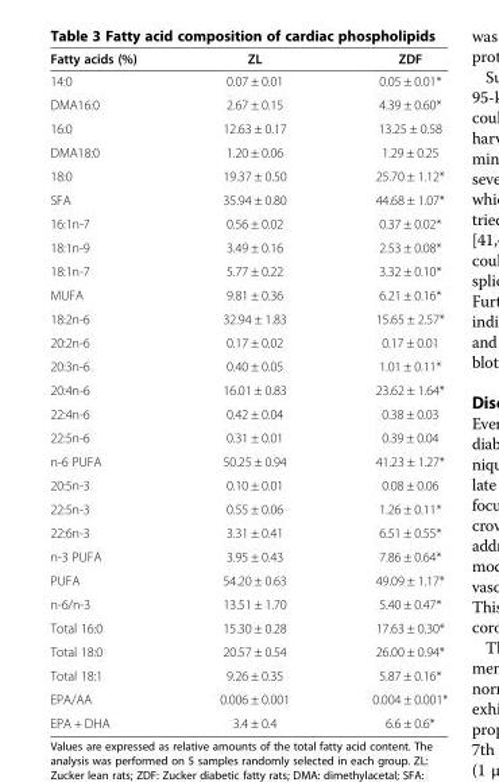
<table><thead><tr><td>Fatty acids (%)</td><td>ZL</td><td>ZDF</td></tr></thead><tbody><tr><td>14:0</td><td>0.07 ± 0.01</td><td>0.05 ± 0.01*</td></tr><tr><td>DMA16:0</td><td>2.67 ± 0.15</td><td>4.39 ± 0.60*</td></tr><tr><td>16:0</td><td>12.63 ± 0.17</td><td>13.25 ± 0.58</td></tr><tr><td>DMA18:0</td><td>1.20 ± 0.06</td><td>1.29 ± 0.25</td></tr><tr><td>18:0</td><td>19.37 ± 0.50</td><td>25.70 ± 1.12*</td></tr><tr><td>SFA</td><td>35.94 ± 0.80</td><td>44.68 ± 1.07*</td></tr><tr><td>16:1n-7</td><td>0.56 ± 0.02</td><td>0.37 ± 0.02*</td></tr><tr><td>18:1n-9</td><td>3.49 ± 0.16</td><td>2.53 ± 0.08*</td></tr><tr><td>18:1n-7</td><td>5.77 ± 0.22</td><td>3.32 ± 0.10*</td></tr><tr><td>MUFA</td><td>9.81 ± 0.36</td><td>6.21 ± 0.16*</td></tr><tr><td>18:2n-6</td><td>32.94 ± 1.83</td><td>15.65 ± 2.57*</td></tr><tr><td>20:2n-6</td><td>0.17 ± 0.02</td><td>0.17 ± 0.01</td></tr><tr><td>20:3n-6</td><td>0.40 ± 0.05</td><td>1.01 ± 0.11*</td></tr><tr><td>20:4n-6</td><td>16.01 ± 0.83</td><td>23.62 ± 1.64*</td></tr><tr><td>22:4n-6</td><td>0.42 ± 0.04</td><td>0.38 ± 0.03</td></tr><tr><td>22:5n-6</td><td>0.31 ± 0.01</td><td>0.39 ± 0.04</td></tr><tr><td>n-6 PUFA</td><td>50.25 ± 0.94</td><td>41.23 ± 1.27*</td></tr><tr><td>20:5n-3</td><td>0.10 ± 0.01</td><td>0.08 ± 0.06</td></tr><tr><td>22:5n-3</td><td>0.55 ± 0.06</td><td>1.26 ± 0.11*</td></tr><tr><td>22:6n-3</td><td>3.31 ± 0.41</td><td>6.51 ± 0.55*</td></tr><tr><td>n-3 PUFA</td><td>3.95 ± 0.43</td><td>7.86 ± 0.64*</td></tr><tr><td>PUFA</td><td>54.20 ± 0.63</td><td>49.09 ± 1.17*</td></tr><tr><td>n-6/n-3</td><td>13.51 ± 1.70</td><td>5.40 ± 0.47*</td></tr><tr><td>Total 16:0</td><td>15.30 ± 0.28</td><td>17.63 ± 0.30*</td></tr><tr><td>Total 18:0</td><td>20.57 ± 0.54</td><td>26.00 ± 0.94*</td></tr><tr><td>Total 18:1</td><td>9.26 ± 0.35</td><td>5.87 ± 0.16*</td></tr><tr><td>EPA/AA</td><td>0.006 ± 0.001</td><td>0.004 ± 0.001*</td></tr><tr><td>EPA + DHA</td><td>3.4 ± 0.4</td><td>6.6 ± 0.6*</td></tr></tbody></table>